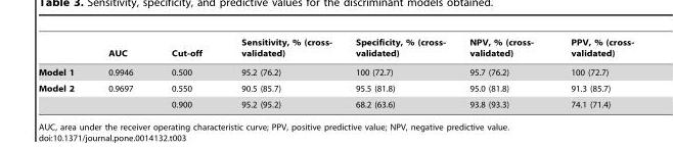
<table><thead><tr><td></td><td>AUC</td><td>Cut-off</td><td>Sensitivity, % (cross- validated)</td><td>Specificity, % (cross- validated)</td><td>NPV, % (cross- validated)</td><td>PPV, % (cross- validated)</td></tr></thead><tbody><tr><td>Model 1</td><td>0.9946</td><td>0.500</td><td>95.2 (76.2)</td><td>100 (72.7)</td><td>95.7 (76.2)</td><td>100 (72.7)</td></tr><tr><td rowspan="2">Model 2</td><td>0.9697</td><td>0.550</td><td>90.5 (85.7)</td><td>95.5 (81.8)</td><td>95.0 (81.8)</td><td>91.3 (85.7)</td></tr><tr><td></td><td>0.900</td><td>95.2 (95.2)</td><td>68.2 (63.6)</td><td>93.8 (93.3)</td><td>74.1 (71.4)</td></tr></tbody></table>